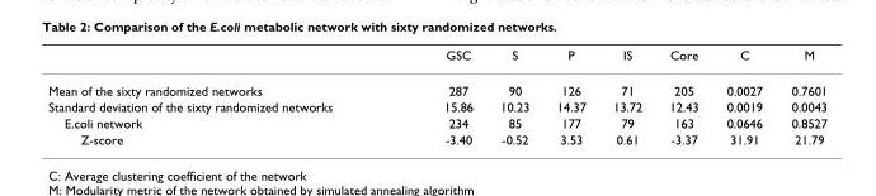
<table><thead><tr><td></td><td>GSC</td><td>S</td><td>P</td><td>IS</td><td>Core</td><td>C</td><td>M</td></tr></thead><tbody><tr><td>Mean of the sixty randomized networks</td><td>287</td><td>90</td><td>126</td><td>71</td><td>205</td><td>0.0027</td><td>0.7601</td></tr><tr><td>Standard deviation of the sixty randomized networks</td><td>15.86</td><td>10.23</td><td>14.37</td><td>13.72</td><td>12.43</td><td>0.0019</td><td>0.0043</td></tr><tr><td>E.coli network</td><td>234</td><td>85</td><td>177</td><td>79</td><td>163</td><td>0.0646</td><td>0.8527</td></tr><tr><td>Z-score</td><td>-3.40</td><td>-0.52</td><td>3.53</td><td>0.61</td><td>-3.37</td><td>31.91</td><td>21.79</td></tr></tbody></table>